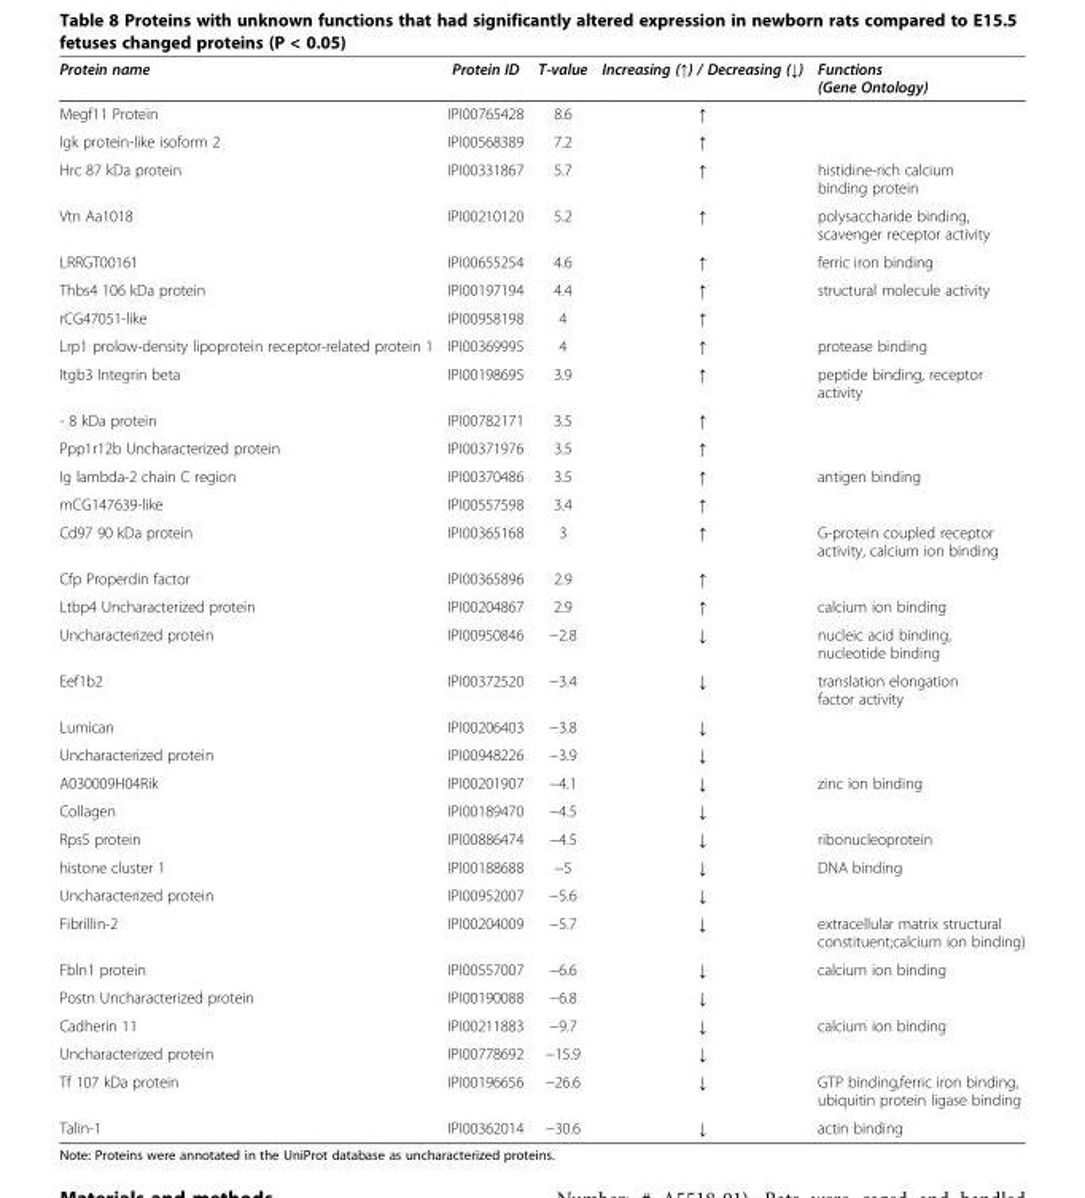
<table><thead><tr><td>Protein name</td><td>Protein ID</td><td>T-value</td><td>Increasing (↑) / Decreasing (↓)</td><td>Functions (Gene Ontology)</td></tr></thead><tbody><tr><td>Megf11 Protein</td><td>IPI00765428</td><td>8.6</td><td>↑</td><td></td></tr><tr><td>Igk protein-like isoform 2</td><td>IPI00568389</td><td>7.2</td><td>↑</td><td></td></tr><tr><td>Hrc 87 kDa protein</td><td>IPI00331867</td><td>5.7</td><td>↑</td><td>histidine-rich calcium binding protein</td></tr><tr><td>Vtn Aa1018</td><td>IPI00210120</td><td>5.2</td><td>↑</td><td>polysaccharide binding, scavenger receptor activity</td></tr><tr><td>LRRGT00161</td><td>IPI00655254</td><td>4.6</td><td>↑</td><td>ferric iron binding</td></tr><tr><td>Thbs4 106 kDa protein</td><td>IPI00197194</td><td>4.4</td><td>↑</td><td>structural molecule activity</td></tr><tr><td>rCG47051-like</td><td>IPI00958198</td><td>4</td><td>↑</td><td></td></tr><tr><td>Lrp1 prolow-density lipoprotein receptor-related protein 1</td><td>IPI00369995</td><td>4</td><td>↑</td><td>protease binding</td></tr><tr><td>Itgb3 Integrin beta</td><td>IPI00198695</td><td>3.9</td><td>↑</td><td>peptide binding, receptor activity</td></tr><tr><td>- 8 kDa protein</td><td>IPI00782171</td><td>3.5</td><td>↑</td><td></td></tr><tr><td>Ppp1r12b Uncharacterized protein</td><td>IPI00371976</td><td>3.5</td><td>↑</td><td></td></tr><tr><td>Ig lambda-2 chain C region</td><td>IPI00370486</td><td>3.5</td><td>↑</td><td>antigen binding</td></tr><tr><td>mCG147639-like</td><td>IPI00557598</td><td>3.4</td><td>↑</td><td></td></tr><tr><td>Cd97 90 kDa protein</td><td>IPI00365168</td><td>3</td><td>↑</td><td>G-protein coupled receptor activity, calcium ion binding</td></tr><tr><td>Cfp Properdin factor</td><td>IPI00365896</td><td>2.9</td><td>↑</td><td></td></tr><tr><td>Ltbp4 Uncharacterized protein</td><td>IPI00204867</td><td>2.9</td><td>↑</td><td>calcium ion binding</td></tr><tr><td>Uncharacterized protein</td><td>IPI00950846</td><td>−2.8</td><td>↓</td><td>nucleic acid binding, nucleotide binding</td></tr><tr><td>Eef1b2</td><td>IPI00372520</td><td>−3.4</td><td>↓</td><td>translation elongation factor activity</td></tr><tr><td>Lumican</td><td>IPI00206403</td><td>−3.8</td><td>↓</td><td></td></tr><tr><td>Uncharacterized protein</td><td>IPI00948226</td><td>−3.9</td><td>↓</td><td></td></tr><tr><td>A030009H04Rik</td><td>IPI00201907</td><td>−4.1</td><td>↓</td><td>zinc ion binding</td></tr><tr><td>Collagen</td><td>IPI00189470</td><td>−4.5</td><td>↓</td><td></td></tr><tr><td>Rps5 protein</td><td>IPI00886474</td><td>−4.5</td><td>↓</td><td>ribonucleoprotein</td></tr><tr><td>histone cluster 1</td><td>IPI00188688</td><td>−5</td><td>↓</td><td>DNA binding</td></tr><tr><td>Uncharacterized protein</td><td>IPI00952007</td><td>−5.6</td><td>↓</td><td></td></tr><tr><td>Fibrillin-2</td><td>IPI00204009</td><td>−5.7</td><td>↓</td><td>extracellular matrix structural constituent;calcium ion binding)</td></tr><tr><td>Fbln1 protein</td><td>IPI00557007</td><td>−6.6</td><td>↓</td><td>calcium ion binding</td></tr><tr><td>Postn Uncharacterized protein</td><td>IPI00190088</td><td>−6.8</td><td>↓</td><td></td></tr><tr><td>Cadherin 11</td><td>IPI00211883</td><td>−9.7</td><td>↓</td><td>calcium ion binding</td></tr><tr><td>Uncharacterized protein</td><td>IPI00778692</td><td>−15.9</td><td>↓</td><td></td></tr><tr><td>Tf 107 kDa protein</td><td>IPI00196656</td><td>−26.6</td><td>↓</td><td>GTP binding,ferric iron binding, ubiquitin protein ligase binding</td></tr><tr><td>Talin-1</td><td>IPI00362014</td><td>−30.6</td><td>↓</td><td>actin binding</td></tr></tbody></table>